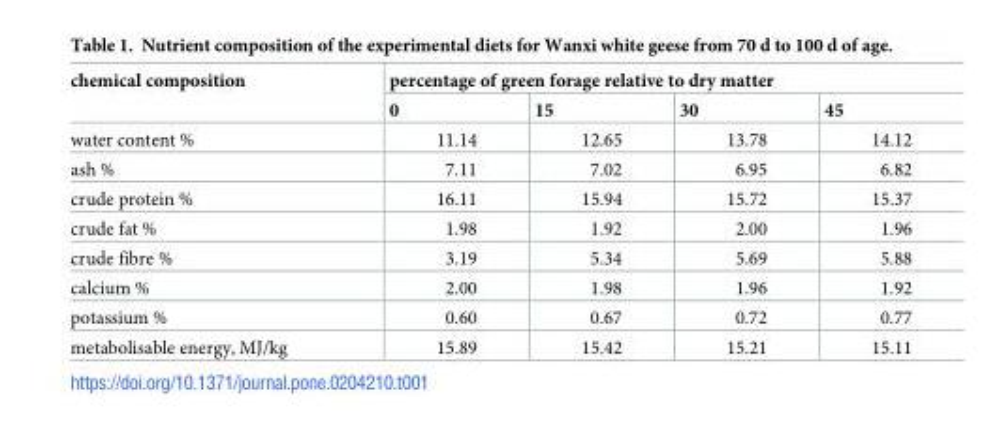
<table><thead><tr><td rowspan="2">chemical composition</td><td colspan="4">percentage of green forage relative to dry matter</td></tr><tr><td>0</td><td>15</td><td>30</td><td>45</td></tr></thead><tbody><tr><td>water content %</td><td>11.14</td><td>12.65</td><td>13.78</td><td>14.12</td></tr><tr><td>ash %</td><td>7.11</td><td>7.02</td><td>6.95</td><td>6.82</td></tr><tr><td>crude protein %</td><td>16.11</td><td>15.94</td><td>15.72</td><td>15.37</td></tr><tr><td>crude fat %</td><td>1.98</td><td>1.92</td><td>2.00</td><td>1.96</td></tr><tr><td>crude fibre %</td><td>3.19</td><td>5.34</td><td>5.69</td><td>5.88</td></tr><tr><td>calcium %</td><td>2.00</td><td>1.98</td><td>1.96</td><td>1.92</td></tr><tr><td>potassium %</td><td>0.60</td><td>0.67</td><td>0.72</td><td>0.77</td></tr><tr><td>metabolisable energy, MJ/kg</td><td>15.89</td><td>15.42</td><td>15.21</td><td>15.11</td></tr></tbody></table>